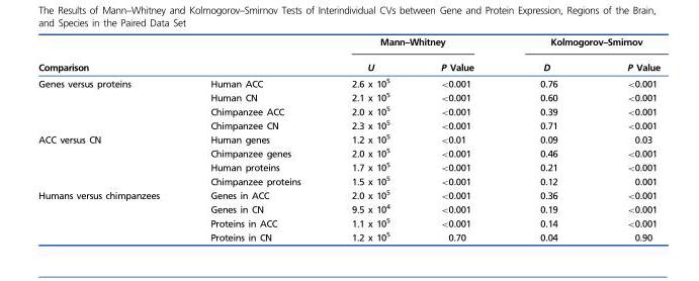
<table><thead><tr><td></td><td></td><td colspan="2">Mann–Whitney</td><td colspan="2">Kolmogorov–Smirnov</td></tr><tr><td colspan="2">Comparison</td><td>U</td><td>P Value</td><td>D</td><td>P Value</td></tr></thead><tbody><tr><td rowspan="4">Genes versus proteins</td><td>Human ACC</td><td>2.6 x 10<sup>5</sup></td><td>&lt;0.001</td><td>0.76</td><td>&lt;0.001</td></tr><tr><td>Human CN</td><td>2.1 x 10<sup>5</sup></td><td>&lt;0.001</td><td>0.60</td><td>&lt;0.001</td></tr><tr><td>Chimpanzee ACC</td><td>2.0 x 10<sup>5</sup></td><td>&lt;0.001</td><td>0.39</td><td>&lt;0.001</td></tr><tr><td>Chimpanzee CN</td><td>2.3 x 10<sup>5</sup></td><td>&lt;0.001</td><td>0.71</td><td>&lt;0.001</td></tr><tr><td rowspan="4">ACC versus CN</td><td>Human genes</td><td>1.2 x 10<sup>5</sup></td><td>&lt;0.01</td><td>0.09</td><td>0.03</td></tr><tr><td>Chimpanzee genes</td><td>2.0 x 10<sup>5</sup></td><td>&lt;0.001</td><td>0.46</td><td>&lt;0.001</td></tr><tr><td>Human proteins</td><td>1.7 x 10<sup>5</sup></td><td>&lt;0.001</td><td>0.21</td><td>&lt;0.001</td></tr><tr><td>Chimpanzee proteins</td><td>1.5 x 10<sup>5</sup></td><td>&lt;0.001</td><td>0.12</td><td>0.001</td></tr><tr><td rowspan="4">Humans versus chimpanzees</td><td>Genes in ACC</td><td>2.0 x 10<sup>5</sup></td><td>&lt;0.001</td><td>0.36</td><td>&lt;0.001</td></tr><tr><td>Genes in CN</td><td>9.5 x 10<sup>4</sup></td><td>&lt;0.001</td><td>0.19</td><td>&lt;0.001</td></tr><tr><td>Proteins in ACC</td><td>1.1 x 10<sup>5</sup></td><td>&lt;0.001</td><td>0.14</td><td>&lt;0.001</td></tr><tr><td>Proteins in CN</td><td>1.2 x 10<sup>5</sup></td><td>0.70</td><td>0.04</td><td>0.90</td></tr></tbody></table>